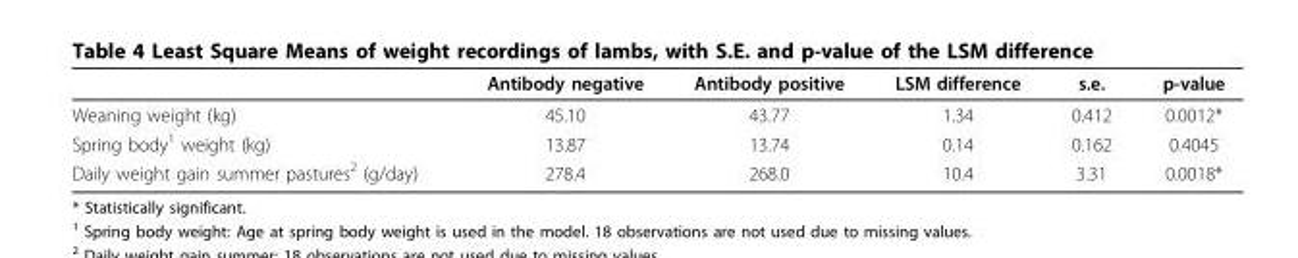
<table><thead><tr><td></td><td>Antibody negative</td><td>Antibody positive</td><td>LSM difference</td><td>s.e.</td><td>p-value</td></tr></thead><tbody><tr><td>Weaning weight (kg)</td><td>45.10</td><td>43.77</td><td>1.34</td><td>0.412</td><td>0.0012*</td></tr><tr><td>Spring body<sup>1</sup> weight (kg)</td><td>13.87</td><td>13.74</td><td>0.14</td><td>0.162</td><td>0.4045</td></tr><tr><td>Daily weight gain summer pastures<sup>2</sup> (g/day)</td><td>278.4</td><td>268.0</td><td>10.4</td><td>3.31</td><td>0.0018*</td></tr></tbody></table>